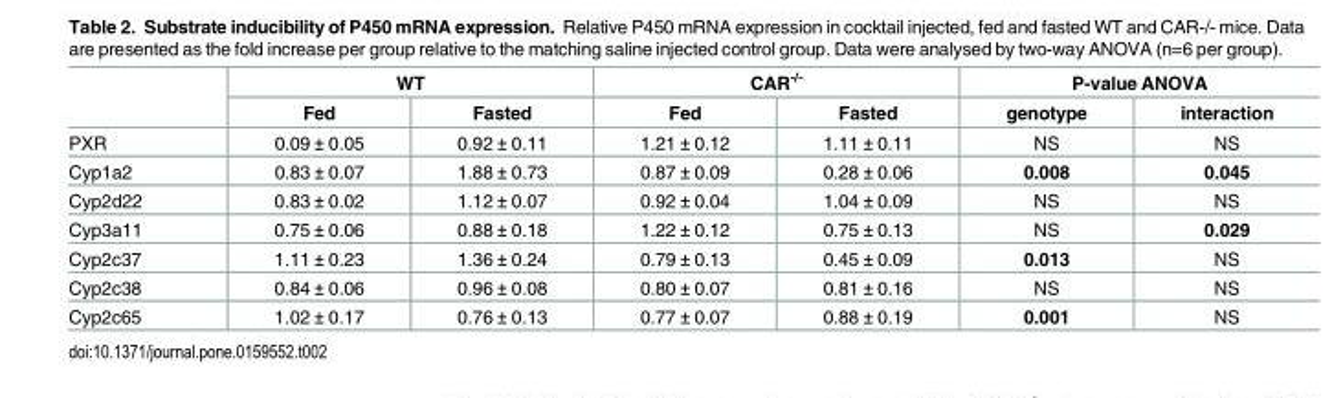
<table><thead><tr><td rowspan="2"></td><td colspan="2">WT</td><td colspan="2">CAR<sup>-/-</sup></td><td colspan="2">P-value ANOVA</td></tr><tr><td>Fed</td><td>Fasted</td><td>Fed</td><td>Fasted</td><td>genotype</td><td>interaction</td></tr></thead><tbody><tr><td>PXR</td><td>0.09 ± 0.05</td><td>0.92 ± 0.11</td><td>1.21 ± 0.12</td><td>1.11 ± 0.11</td><td>NS</td><td>NS</td></tr><tr><td>Cyp1a2</td><td>0.83 ± 0.07</td><td>1.88 ± 0.73</td><td>0.87 ± 0.09</td><td>0.28 ± 0.06</td><td>0.008</td><td>0.045</td></tr><tr><td>Cyp2d22</td><td>0.83 ± 0.02</td><td>1.12 ± 0.07</td><td>0.92 ± 0.04</td><td>1.04 ± 0.09</td><td>NS</td><td>NS</td></tr><tr><td>Cyp3a11</td><td>0.75 ± 0.06</td><td>0.88 ± 0.18</td><td>1.22 ± 0.12</td><td>0.75 ± 0.13</td><td>NS</td><td>0.029</td></tr><tr><td>Cyp2c37</td><td>1.11 ± 0.23</td><td>1.36 ± 0.24</td><td>0.79 ± 0.13</td><td>0.45 ± 0.09</td><td>0.013</td><td>NS</td></tr><tr><td>Cyp2c38</td><td>0.84 ± 0.06</td><td>0.96 ± 0.08</td><td>0.80 ± 0.07</td><td>0.81 ± 0.16</td><td>NS</td><td>NS</td></tr><tr><td>Cyp2c65</td><td>1.02 ± 0.17</td><td>0.76 ± 0.13</td><td>0.77 ± 0.07</td><td>0.88 ± 0.19</td><td>0.001</td><td>NS</td></tr></tbody></table>